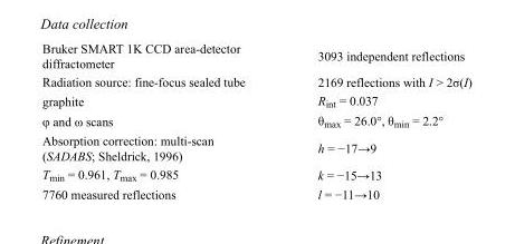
<table><tbody><tr><td>Bruker SMART 1K CCD area-detector diffractometer</td><td>3093 independent reflections</td></tr><tr><td>Radiation source: fine-focus sealed tube</td><td>2169 reflections with I &gt; 2σ(I)</td></tr><tr><td>graphite</td><td>R<sub>int</sub> = 0.037</td></tr><tr><td>φ and ω scans</td><td>θ<sub>max</sub> = 26.0°, θ<sub>min</sub> = 2.2°</td></tr><tr><td>Absorption correction: multi-scan (SADABS; Sheldrick, 1996)</td><td>h = −17→9</td></tr><tr><td>T<sub>min</sub> = 0.961, T<sub>max</sub> = 0.985</td><td>k = −15→13</td></tr><tr><td>7760 measured reflections</td><td>l = −11→10</td></tr></tbody></table>